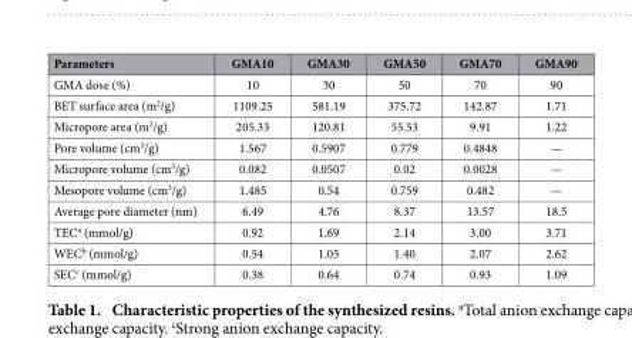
<table><thead><tr><td>Parameters</td><td>GMA10</td><td>GMA30</td><td>GMA50</td><td>GMA70</td><td>GMA90</td></tr></thead><tbody><tr><td>GMA dose (%)</td><td>10</td><td>30</td><td>50</td><td>70</td><td>90</td></tr><tr><td>BET surface area (m<sup>2</sup>/g)</td><td>1109.25</td><td>581.19</td><td>375.72</td><td>142.87</td><td>1.71</td></tr><tr><td>Micropore area (m<sup>2</sup>/g)</td><td>205.33</td><td>120.81</td><td>55.53</td><td>9.91</td><td>1.22</td></tr><tr><td>Pore volume (cm<sup>3</sup>/g)</td><td>1.567</td><td>0.5907</td><td>0.779</td><td>0.4848</td><td>—</td></tr><tr><td>Micropore volume (cm<sup>3</sup>/g)</td><td>0.082</td><td>0.0507</td><td>0.02</td><td>0.0028</td><td>—</td></tr><tr><td>Mesopore volume (cm<sup>3</sup>/g)</td><td>1.485</td><td>0.54</td><td>0.759</td><td>0.482</td><td>—</td></tr><tr><td>Average pore diameter (nm)</td><td>6.49</td><td>4.76</td><td>8.37</td><td>13.57</td><td>18.5</td></tr><tr><td>TEC<sup>a</sup> (mmol/g)</td><td>0.92</td><td>1.69</td><td>2.14</td><td>3.00</td><td>3.71</td></tr><tr><td>WEC<sup>b</sup> (mmol/g)</td><td>0.54</td><td>1.05</td><td>1.40</td><td>2.07</td><td>2.62</td></tr><tr><td>SEC<sup>c</sup> (mmol/g)</td><td>0.38</td><td>0.64</td><td>0.74</td><td>0.93</td><td>1.09</td></tr></tbody></table>